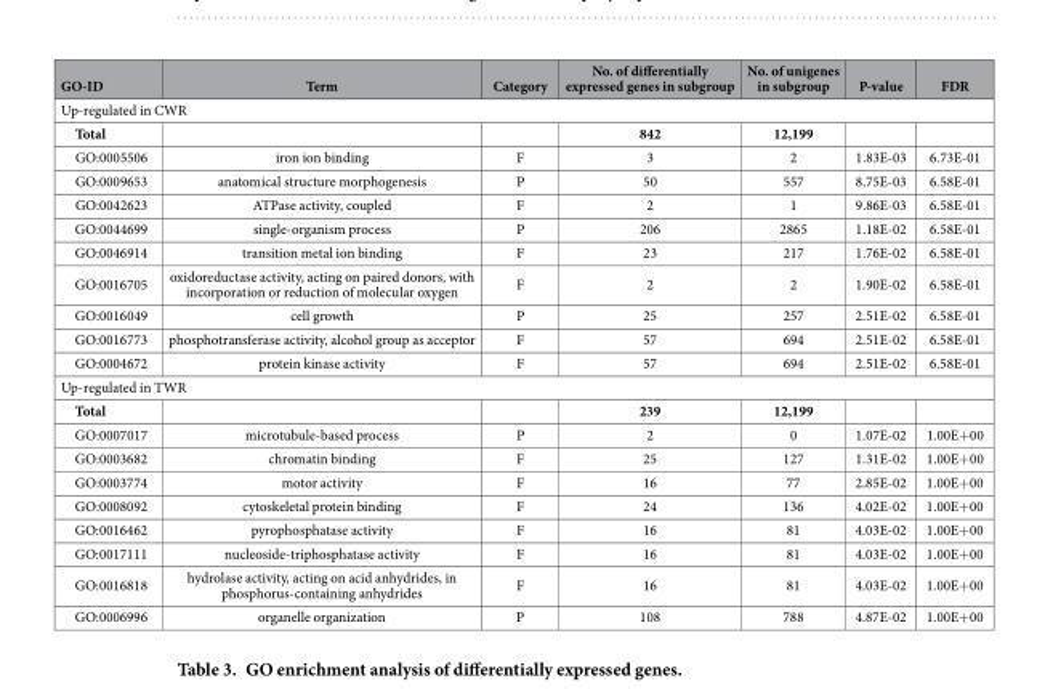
<table><thead><tr><td>GO-ID</td><td>Term</td><td>Category</td><td>No. of differentially expressed genes in subgroup</td><td>No. of unigenes in subgroup</td><td>P-value</td><td>FDR</td></tr></thead><tbody><tr><td colspan="7">Up-regulated in CWR</td></tr><tr><td>Total</td><td></td><td></td><td>842</td><td>12,199</td><td></td><td></td></tr><tr><td>GO:0005506</td><td>iron ion binding</td><td>F</td><td>3</td><td>2</td><td>1.83E-03</td><td>6.73E-01</td></tr><tr><td>GO:0009653</td><td>anatomical structure morphogenesis</td><td>P</td><td>50</td><td>557</td><td>8.75E-03</td><td>6.58E-01</td></tr><tr><td>GO:0042623</td><td>ATPase activity, coupled</td><td>F</td><td>2</td><td>1</td><td>9.86E-03</td><td>6.58E-01</td></tr><tr><td>GO:0044699</td><td>single-organism process</td><td>P</td><td>206</td><td>2865</td><td>1.18E-02</td><td>6.58E-01</td></tr><tr><td>GO:0046914</td><td>transition metal ion binding</td><td>F</td><td>23</td><td>217</td><td>1.76E-02</td><td>6.58E-01</td></tr><tr><td>GO:0016705</td><td>oxidoreductase activity, acting on paired donors, with incorporation or reduction of molecular oxygen</td><td>F</td><td>2</td><td>2</td><td>1.90E-02</td><td>6.58E-01</td></tr><tr><td>GO:0016049</td><td>cell growth</td><td>P</td><td>25</td><td>257</td><td>2.51E-02</td><td>6.58E-01</td></tr><tr><td>GO:0016773</td><td>phosphotransferase activity, alcohol group as acceptor</td><td>F</td><td>57</td><td>694</td><td>2.51E-02</td><td>6.58E-01</td></tr><tr><td>GO:0004672</td><td>protein kinase activity</td><td>F</td><td>57</td><td>694</td><td>2.51E-02</td><td>6.58E-01</td></tr><tr><td colspan="7">Up-regulated in TWR</td></tr><tr><td>Total</td><td></td><td></td><td>239</td><td>12,199</td><td></td><td></td></tr><tr><td>GO:0007017</td><td>microtubule-based process</td><td>P</td><td>2</td><td>0</td><td>1.07E-02</td><td>1.00E+ 00</td></tr><tr><td>GO:0003682</td><td>chromatin binding</td><td>F</td><td>25</td><td>127</td><td>1.31E-02</td><td>1.00E+ 00</td></tr><tr><td>GO:0003774</td><td>motor activity</td><td>F</td><td>16</td><td>77</td><td>2.85E-02</td><td>1.00E+ 00</td></tr><tr><td>GO:0008092</td><td>cytoskeletal protein binding</td><td>F</td><td>24</td><td>136</td><td>4.02E-02</td><td>1.00E+ 00</td></tr><tr><td>GO:0016462</td><td>pyrophosphatase activity</td><td>F</td><td>16</td><td>81</td><td>4.03E-02</td><td>1.00E+ 00</td></tr><tr><td>GO:0017111</td><td>nucleoside-triphosphatase activity</td><td>F</td><td>16</td><td>81</td><td>4.03E-02</td><td>1.00E+ 00</td></tr><tr><td>GO:0016818</td><td>hydrolase activity, acting on acid anhydrides, in phosphorus-containing anhydrides</td><td>F</td><td>16</td><td>81</td><td>4.03E-02</td><td>1.00E+ 00</td></tr><tr><td>GO:0006996</td><td>organelle organization</td><td>P</td><td>108</td><td>788</td><td>4.87E-02</td><td>1.00E+ 00</td></tr></tbody></table>